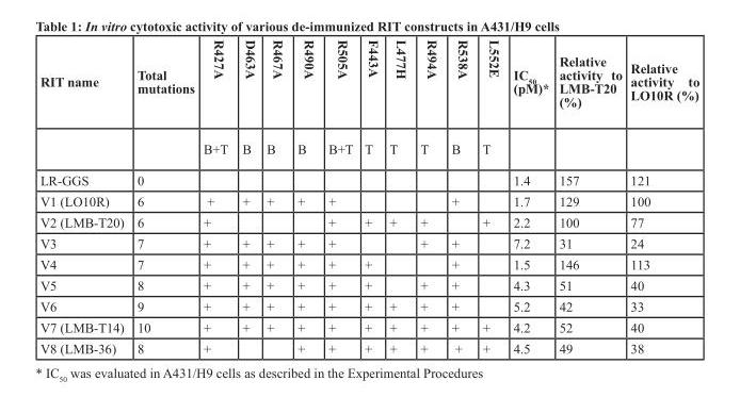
<table><thead><tr><td>RIT name</td><td>Total mutations</td><td>R427A</td><td>D463A</td><td>R467A</td><td>R490A</td><td>R505A</td><td>F443A</td><td>L477H</td><td>R494A</td><td>R538A</td><td>L552E</td><td>IC<sub>50</sub> (pM)*</td><td>Relative activity to LMB-T20 (%)</td><td>Relative activity to LO10R (%)</td></tr></thead><tbody><tr><td></td><td></td><td>B+T</td><td>B</td><td>B</td><td>B</td><td>B+T</td><td>T</td><td>T</td><td>T</td><td>B</td><td>T</td><td></td><td></td><td></td></tr><tr><td>LR-GGS</td><td>0</td><td></td><td></td><td></td><td></td><td></td><td></td><td></td><td></td><td></td><td></td><td>1.4</td><td>157</td><td>121</td></tr><tr><td>V1 (LO10R)</td><td>6</td><td>+</td><td>+</td><td>+</td><td>+</td><td>+</td><td></td><td></td><td></td><td>+</td><td></td><td>1.7</td><td>129</td><td>100</td></tr><tr><td>V2 (LMB-T20)</td><td>6</td><td>+</td><td></td><td></td><td></td><td>+</td><td>+</td><td>+</td><td>+</td><td></td><td>+</td><td>2.2</td><td>100</td><td>77</td></tr><tr><td>V3</td><td>7</td><td>+</td><td>+</td><td>+</td><td>+</td><td>+</td><td></td><td></td><td>+</td><td>+</td><td></td><td>7.2</td><td>31</td><td>24</td></tr><tr><td>V4</td><td>7</td><td>+</td><td>+</td><td>+</td><td>+</td><td>+</td><td>+</td><td></td><td></td><td>+</td><td></td><td>1.5</td><td>146</td><td>113</td></tr><tr><td>V5</td><td>8</td><td>+</td><td>+</td><td>+</td><td>+</td><td>+</td><td>+</td><td></td><td>+</td><td>+</td><td></td><td>4.3</td><td>51</td><td>40</td></tr><tr><td>V6</td><td>9</td><td>+</td><td>+</td><td>+</td><td>+</td><td>+</td><td>+</td><td>+</td><td>+</td><td>+</td><td></td><td>5.2</td><td>42</td><td>33</td></tr><tr><td>V7 (LMB-T14)</td><td>10</td><td>+</td><td>+</td><td>+</td><td>+</td><td>+</td><td>+</td><td>+</td><td>+</td><td>+</td><td>+</td><td>4.2</td><td>52</td><td>40</td></tr><tr><td>V8 (LMB-36)</td><td>8</td><td>+</td><td></td><td></td><td>+</td><td>+</td><td>+</td><td>+</td><td>+</td><td>+</td><td>+</td><td>4.5</td><td>49</td><td>38</td></tr></tbody></table>